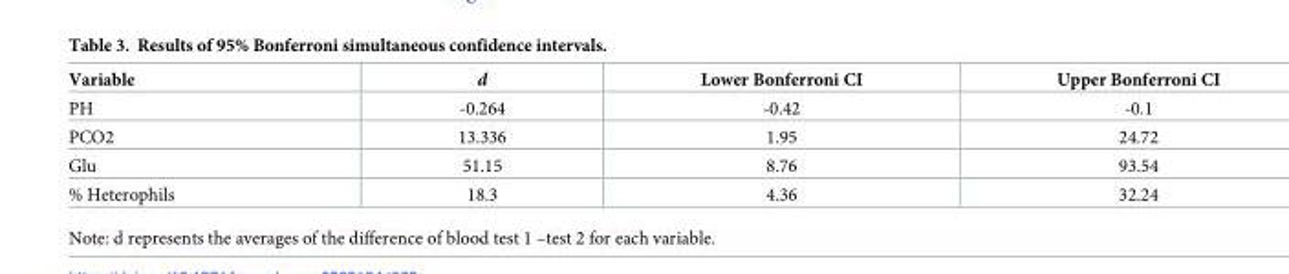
<table><thead><tr><td>Variable</td><td>d</td><td>Lower Bonferroni CI</td><td>Upper Bonferroni CI</td></tr></thead><tbody><tr><td>PH</td><td>-0.264</td><td>-0.42</td><td>-0.1</td></tr><tr><td>PCO2</td><td>13.336</td><td>1.95</td><td>24.72</td></tr><tr><td>Glu</td><td>51.15</td><td>8.76</td><td>93.54</td></tr><tr><td>% Heterophils</td><td>18.3</td><td>4.36</td><td>32.24</td></tr></tbody></table>